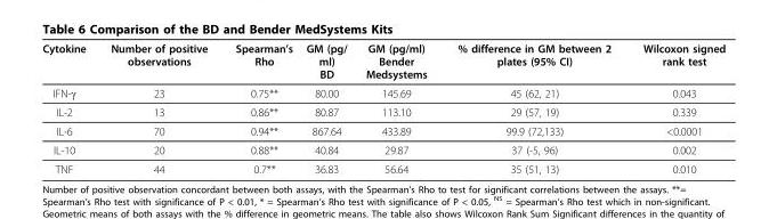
<table><thead><tr><td>Cytokine</td><td>Number of positive observations</td><td>Spearman’s Rho</td><td>GM (pg/ ml) BD</td><td>GM (pg/ml) Bender Medsystems</td><td>% difference in GM between 2 plates (95% CI)</td><td>Wilcoxon signed rank test</td></tr></thead><tbody><tr><td>IFN-γ</td><td>23</td><td>0.75**</td><td>80.00</td><td>145.69</td><td>45 (62, 21)</td><td>0.043</td></tr><tr><td>IL-2</td><td>13</td><td>0.86**</td><td>80.87</td><td>113.10</td><td>29 (57, 19)</td><td>0.339</td></tr><tr><td>IL-6</td><td>70</td><td>0.94**</td><td>867.64</td><td>433.89</td><td>99.9 (72,133)</td><td>&lt;0.0001</td></tr><tr><td>IL-10</td><td>20</td><td>0.88**</td><td>40.84</td><td>29.87</td><td>37 (-5, 96)</td><td>0.002</td></tr><tr><td>TNF</td><td>44</td><td>0.7**</td><td>36.83</td><td>56.64</td><td>35 (51, 13)</td><td>0.010</td></tr></tbody></table>